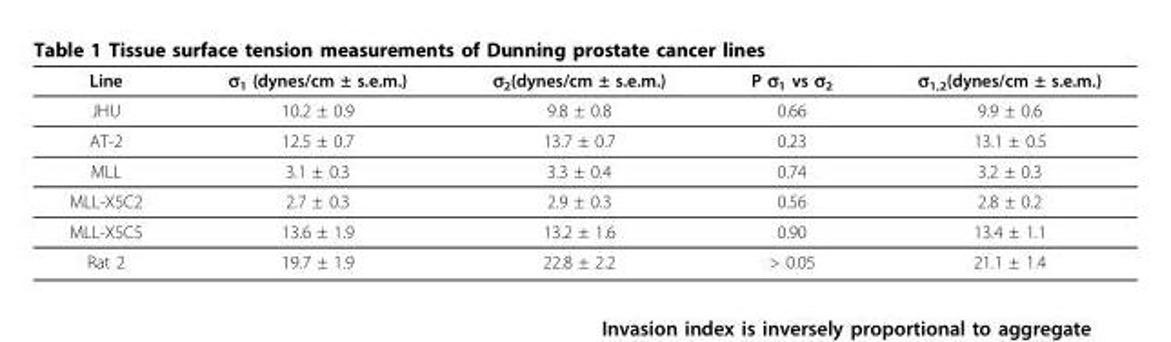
<table><thead><tr><td>Line</td><td>σ<sub>1</sub> (dynes/cm ± s.e.m.)</td><td>σ<sub>2</sub>(dynes/cm ± s.e.m.)</td><td>P σ<sub>1</sub> vs σ<sub>2</sub></td><td>σ<sub>1,2</sub>(dynes/cm ± s.e.m.)</td></tr></thead><tbody><tr><td>JHU</td><td>10.2 ± 0.9</td><td>9.8 ± 0.8</td><td>0.66</td><td>9.9 ± 0.6</td></tr><tr><td>AT-2</td><td>12.5 ± 0.7</td><td>13.7 ± 0.7</td><td>0.23</td><td>13.1 ± 0.5</td></tr><tr><td>MLL</td><td>3.1 ± 0.3</td><td>3.3 ± 0.4</td><td>0.74</td><td>3.2 ± 0.3</td></tr><tr><td>MLL-X5C2</td><td>2.7 ± 0.3</td><td>2.9 ± 0.3</td><td>0.56</td><td>2.8 ± 0.2</td></tr><tr><td>MLL-X5C5</td><td>13.6 ± 1.9</td><td>13.2 ± 1.6</td><td>0.90</td><td>13.4 ± 1.1</td></tr><tr><td>Rat 2</td><td>19.7 ± 1.9</td><td>22.8 ± 2.2</td><td>&gt; 0.05</td><td>21.1 ± 1.4</td></tr></tbody></table>